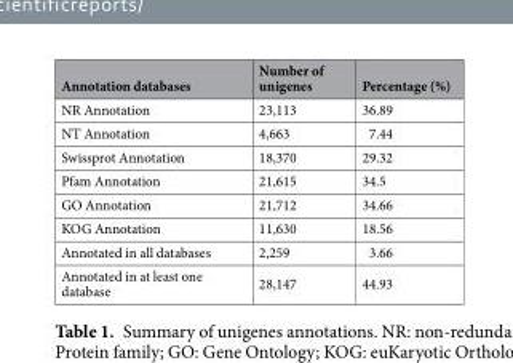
<table><thead><tr><td>Annotation databases</td><td>Number of unigenes</td><td>Percentage (%)</td></tr></thead><tbody><tr><td>NR Annotation</td><td>23,113</td><td>36.89</td></tr><tr><td>NT Annotation</td><td>4,663</td><td>7.44</td></tr><tr><td>Swissprot Annotation</td><td>18,370</td><td>29.32</td></tr><tr><td>Pfam Annotation</td><td>21,615</td><td>34.5</td></tr><tr><td>GO Annotation</td><td>21,712</td><td>34.66</td></tr><tr><td>KOG Annotation</td><td>11,630</td><td>18.56</td></tr><tr><td>Annotated in all databases</td><td>2,259</td><td>3.66</td></tr><tr><td>Annotated in at least one database</td><td>28,147</td><td>44.93</td></tr></tbody></table>